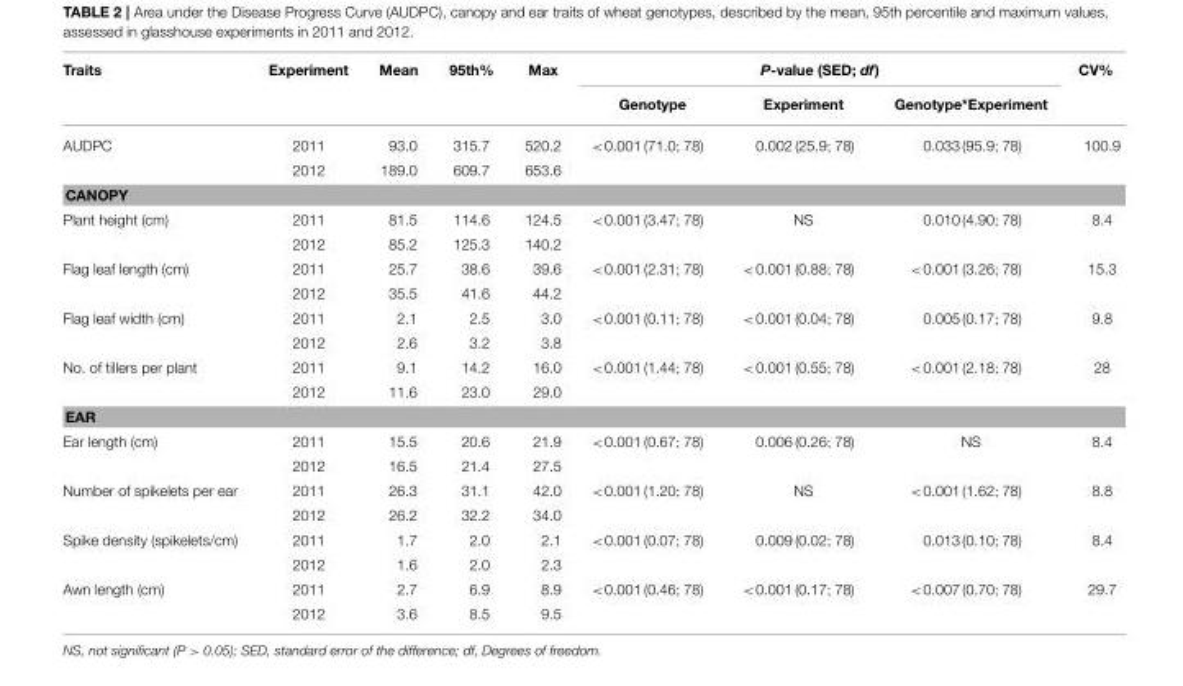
<table><thead><tr><td rowspan="2">Traits</td><td rowspan="2">Experiment</td><td rowspan="2">Mean</td><td rowspan="2">95th%</td><td rowspan="2">Max</td><td colspan="3">P-value (SED; df)</td><td rowspan="2">CV%</td></tr><tr><td>Genotype</td><td>Experiment</td><td>Genotype*Experiment</td></tr></thead><tbody><tr><td rowspan="2">AUDPC</td><td>2011</td><td>93.0</td><td>315.7</td><td>520.2</td><td>&lt;0.001 (71.0; 78)</td><td>0.002 (25.9; 78)</td><td>0.033 (95.9; 78)</td><td>100.9</td></tr><tr><td>2012</td><td>189.0</td><td>609.7</td><td>653.6</td><td></td><td></td><td></td><td></td></tr><tr><td colspan="9">CANOPY</td></tr><tr><td rowspan="2">Plant height (cm)</td><td>2011</td><td>81.5</td><td>114.6</td><td>124.5</td><td>&lt;0.001 (3.47; 78)</td><td>NS</td><td>0.010 (4.90; 78)</td><td>8.4</td></tr><tr><td>2012</td><td>85.2</td><td>125.3</td><td>140.2</td><td></td><td></td><td></td><td></td></tr><tr><td rowspan="2">Flag leaf length (cm)</td><td>2011</td><td>25.7</td><td>38.6</td><td>39.6</td><td>&lt;0.001 (2.31; 78)</td><td>&lt;0.001 (0.88; 78)</td><td>&lt;0.001 (3.26; 78)</td><td>15.3</td></tr><tr><td>2012</td><td>35.5</td><td>41.6</td><td>44.2</td><td></td><td></td><td></td><td></td></tr><tr><td rowspan="2">Flag leaf width (cm)</td><td>2011</td><td>2.1</td><td>2.5</td><td>3.0</td><td>&lt;0.001 (0.11; 78)</td><td>&lt;0.001 (0.04; 78)</td><td>0.005 (0.17; 78)</td><td>9.8</td></tr><tr><td>2012</td><td>2.6</td><td>3.2</td><td>3.8</td><td></td><td></td><td></td><td></td></tr><tr><td rowspan="2">No. of tillers per plant</td><td>2011</td><td>9.1</td><td>14.2</td><td>16.0</td><td>&lt;0.001 (1.44; 78)</td><td>&lt;0.001 (0.55; 78)</td><td>&lt;0.001 (2.18; 78)</td><td>28</td></tr><tr><td>2012</td><td>11.6</td><td>23.0</td><td>29.0</td><td></td><td></td><td></td><td></td></tr><tr><td colspan="9">EAR</td></tr><tr><td rowspan="2">Ear length (cm)</td><td>2011</td><td>15.5</td><td>20.6</td><td>21.9</td><td>&lt;0.001 (0.67; 78)</td><td>0.006 (0.26; 78)</td><td>NS</td><td>8.4</td></tr><tr><td>2012</td><td>16.5</td><td>21.4</td><td>27.5</td><td></td><td></td><td></td><td></td></tr><tr><td rowspan="2">Number of spikelets per ear</td><td>2011</td><td>26.3</td><td>31.1</td><td>42.0</td><td>&lt;0.001 (1.20; 78)</td><td>NS</td><td>&lt;0.001 (1.62; 78)</td><td>8.8</td></tr><tr><td>2012</td><td>26.2</td><td>32.2</td><td>34.0</td><td></td><td></td><td></td><td></td></tr><tr><td rowspan="2">Spike density (spikelets/cm)</td><td>2011</td><td>1.7</td><td>2.0</td><td>2.1</td><td>&lt;0.001 (0.07; 78)</td><td>0.009 (0.02; 78)</td><td>0.013 (0.10; 78)</td><td>8.4</td></tr><tr><td>2012</td><td>1.6</td><td>2.0</td><td>2.3</td><td></td><td></td><td></td><td></td></tr><tr><td rowspan="2">Awn length (cm)</td><td>2011</td><td>2.7</td><td>6.9</td><td>8.9</td><td>&lt;0.001 (0.46; 78)</td><td>&lt;0.001 (0.17; 78)</td><td>&lt;0.007 (0.70; 78)</td><td>29.7</td></tr><tr><td>2012</td><td>3.6</td><td>8.5</td><td>9.5</td><td></td><td></td><td></td><td></td></tr></tbody></table>